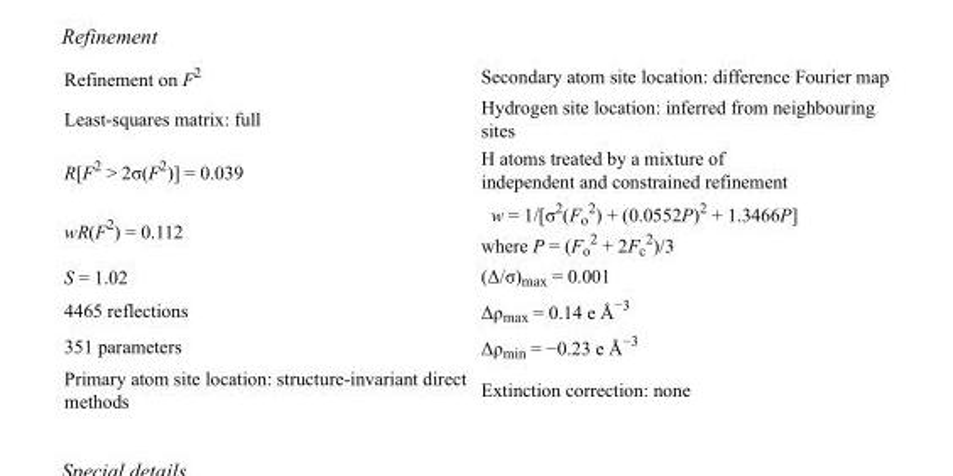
<table><tbody><tr><td>Refinement on F<sup>2</sup></td><td>Secondary atom site location: difference Fourier map</td></tr><tr><td>Least-squares matrix: full</td><td>Hydrogen site location: inferred from neighbouring sites</td></tr><tr><td>R[F<sup>2</sup> &gt; 2σ(F<sup>2</sup>)] = 0.039</td><td>H atoms treated by a mixture of independent and constrained refinement</td></tr><tr><td>wR(F<sup>2</sup>) = 0.112</td><td>w = 1/[σ<sup>2</sup>(F<sub>o</sub> <sup>2</sup>) + (0.0552P)<sup>2</sup> + 1.3466P] where P = (F<sub>o</sub> <sup>2</sup> + 2F<sub>c</sub> <sup>2</sup>)/3</td></tr><tr><td>S = 1.02</td><td>(Δ/σ)<sub>max</sub> = 0.001</td></tr><tr><td>4465 reflections</td><td>Δρ<sub>max</sub> = 0.14 e Å<sup>−3</sup></td></tr><tr><td>351 parameters</td><td>Δρ<sub>min</sub> = −0.23 e Å<sup>−3</sup></td></tr><tr><td>Primary atom site location: structure-invariant direct methods</td><td>Extinction correction: none</td></tr></tbody></table>